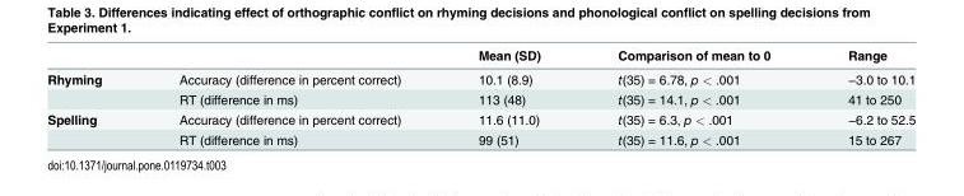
<table><thead><tr><td></td><td></td><td>Mean (SD)</td><td>Comparison of mean to 0</td><td>Range</td></tr></thead><tbody><tr><td rowspan="2">Rhyming</td><td>Accuracy (difference in percent correct)</td><td>10.1 (8.9)</td><td>t(35) = 6.78, p &lt; .001</td><td>−3.0 to 10.1</td></tr><tr><td>RT (difference in ms)</td><td>113 (48)</td><td>t(35) = 14.1, p &lt; .001</td><td>41 to 250</td></tr><tr><td rowspan="2">Spelling</td><td>Accuracy (difference in percent correct)</td><td>11.6 (11.0)</td><td>t(35) = 6.3, p &lt; .001</td><td>−6.2 to 52.5</td></tr><tr><td>RT (difference in ms)</td><td>99 (51)</td><td>t(35) = 11.6, p &lt; .001</td><td>15 to 267</td></tr></tbody></table>